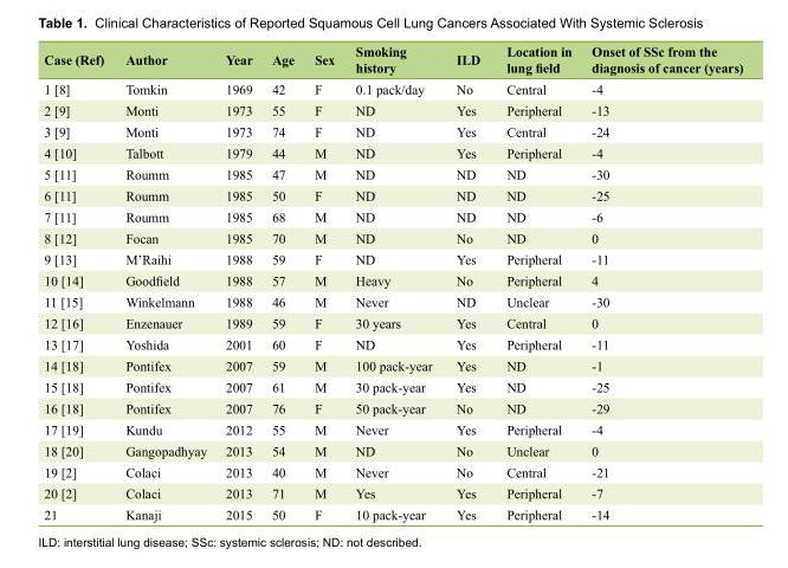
<table><thead><tr><td>Case (Ref)</td><td>Author</td><td>Year</td><td>Age</td><td>Sex</td><td>Smoking history</td><td>ILD</td><td>Location in lung field</td><td>Onset of SSc from the diagnosis of cancer (years)</td></tr></thead><tbody><tr><td>1 [8]</td><td>Tomkin</td><td>1969</td><td>42</td><td>F</td><td>0.1 pack/day</td><td>No</td><td>Central</td><td>-4</td></tr><tr><td>2 [9]</td><td>Monti</td><td>1973</td><td>55</td><td>F</td><td>ND</td><td>Yes</td><td>Peripheral</td><td>-13</td></tr><tr><td>3 [9]</td><td>Monti</td><td>1973</td><td>74</td><td>F</td><td>ND</td><td>Yes</td><td>Central</td><td>-24</td></tr><tr><td>4 [10]</td><td>Talbott</td><td>1979</td><td>44</td><td>M</td><td>ND</td><td>Yes</td><td>Peripheral</td><td>-4</td></tr><tr><td>5 [11]</td><td>Roumm</td><td>1985</td><td>47</td><td>M</td><td>ND</td><td>ND</td><td>ND</td><td>-30</td></tr><tr><td>6 [11]</td><td>Roumm</td><td>1985</td><td>50</td><td>F</td><td>ND</td><td>ND</td><td>ND</td><td>-25</td></tr><tr><td>7 [11]</td><td>Roumm</td><td>1985</td><td>68</td><td>M</td><td>ND</td><td>ND</td><td>ND</td><td>-6</td></tr><tr><td>8 [12]</td><td>Focan</td><td>1985</td><td>70</td><td>M</td><td>ND</td><td>No</td><td>ND</td><td>0</td></tr><tr><td>9 [13]</td><td>M’Raihi</td><td>1988</td><td>59</td><td>F</td><td>ND</td><td>Yes</td><td>Peripheral</td><td>-11</td></tr><tr><td>10 [14]</td><td>Goodfield</td><td>1988</td><td>57</td><td>M</td><td>Heavy</td><td>No</td><td>Peripheral</td><td>4</td></tr><tr><td>11 [15]</td><td>Winkelmann</td><td>1988</td><td>46</td><td>M</td><td>Never</td><td>ND</td><td>Unclear</td><td>-30</td></tr><tr><td>12 [16]</td><td>Enzenauer</td><td>1989</td><td>59</td><td>F</td><td>30 years</td><td>Yes</td><td>Central</td><td>0</td></tr><tr><td>13 [17]</td><td>Yoshida</td><td>2001</td><td>60</td><td>F</td><td>ND</td><td>Yes</td><td>Peripheral</td><td>-11</td></tr><tr><td>14 [18]</td><td>Pontifex</td><td>2007</td><td>59</td><td>M</td><td>100 pack-year</td><td>Yes</td><td>ND</td><td>-1</td></tr><tr><td>15 [18]</td><td>Pontifex</td><td>2007</td><td>61</td><td>M</td><td>30 pack-year</td><td>Yes</td><td>ND</td><td>-25</td></tr><tr><td>16 [18]</td><td>Pontifex</td><td>2007</td><td>76</td><td>F</td><td>50 pack-year</td><td>No</td><td>ND</td><td>-29</td></tr><tr><td>17 [19]</td><td>Kundu</td><td>2012</td><td>55</td><td>M</td><td>Never</td><td>Yes</td><td>Peripheral</td><td>-4</td></tr><tr><td>18 [20]</td><td>Gangopadhyay</td><td>2013</td><td>54</td><td>M</td><td>ND</td><td>No</td><td>Unclear</td><td>0</td></tr><tr><td>19 [2]</td><td>Colaci</td><td>2013</td><td>40</td><td>M</td><td>Never</td><td>No</td><td>Central</td><td>-21</td></tr><tr><td>20 [2]</td><td>Colaci</td><td>2013</td><td>71</td><td>M</td><td>Yes</td><td>Yes</td><td>Peripheral</td><td>-7</td></tr><tr><td>21</td><td>Kanaji</td><td>2015</td><td>50</td><td>F</td><td>10 pack-year</td><td>Yes</td><td>Peripheral</td><td>-14</td></tr></tbody></table>